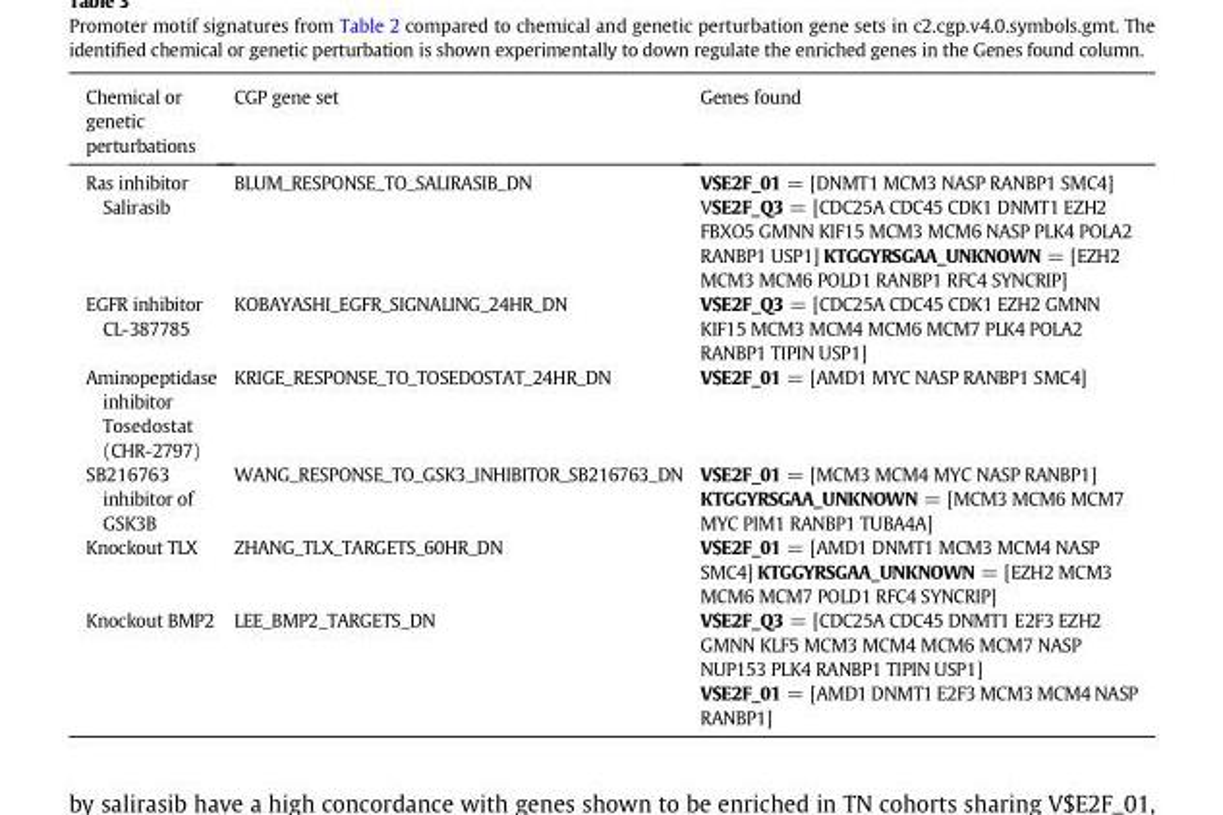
<table><thead><tr><td>Chemical or genetic perturbations</td><td>CGP gene set</td><td>Genes found</td></tr></thead><tbody><tr><td>Ras inhibitor Salirasib</td><td>BLUM_RESPONSE_TO_SALIRASIB_DN</td><td>V$E2F_01 = [DNMT1 MCM3 NASP RANBP1 SMC4] V$E2F_Q3 = [CDC25A CDC45 CDK1 DNMT1 EZH2 FBXO5 GMNN KIF15 MCM3 MCM6 NASP PLK4 POLA2 RANBP1 USP1] KTGGYRSGAA_UNKNOWN = [EZH2 MCM3 MCM6 POLD1 RANBP1 RFC4 SYNCRIP]</td></tr><tr><td>EGFR inhibitor CL-387785</td><td>KOBAYASHI_EGFR_SIGNALING_24HR_DN</td><td>V$E2F_Q3 = [CDC25A CDC45 CDK1 EZH2 GMNN KIF15 MCM3 MCM4 MCM6 MCM7 PLK4 POLA2 RANBP1 TIPIN USP1]</td></tr><tr><td>Aminopeptidase inhibitor Tosedostat (CHR-2797)</td><td>KRIGE_RESPONSE_TO_TOSEDOSTAT_24HR_DN</td><td>V$E2F_01 = [AMD1 MYC NASP RANBP1 SMC4]</td></tr><tr><td>SB216763 inhibitor of GSK3B</td><td>WANG_RESPONSE_TO_GSK3_INHIBITOR_SB216763_DN</td><td>V$E2F_01 = [MCM3 MCM4 MYC NASP RANBP1] KTGGYRSGAA_UNKNOWN = [MCM3 MCM6 MCM7 MYC PIM1 RANBP1 TUBA4A]</td></tr><tr><td>Knockout TLX</td><td>ZHANG_TLX_TARGETS_60HR_DN</td><td>V$E2F_01 = [AMD1 DNMT1 MCM3 MCM4 NASP SMC4] KTGGYRSGAA_UNKNOWN = [EZH2 MCM3 MCM6 MCM7 POLD1 RFC4 SYNCRIP]</td></tr><tr><td>Knockout BMP2</td><td>LEE_BMP2_TARGETS_DN</td><td>V$E2F_Q3 = [CDC25A CDC45 DNMT1 E2F3 EZH2 GMNN KLF5 MCM3 MCM4 MCM6 MCM7 NASP NUP153 PLK4 RANBP1 TIPIN USP1] V$E2F_01 = [AMD1 DNMT1 E2F3 MCM3 MCM4 NASP RANBP1]</td></tr></tbody></table>